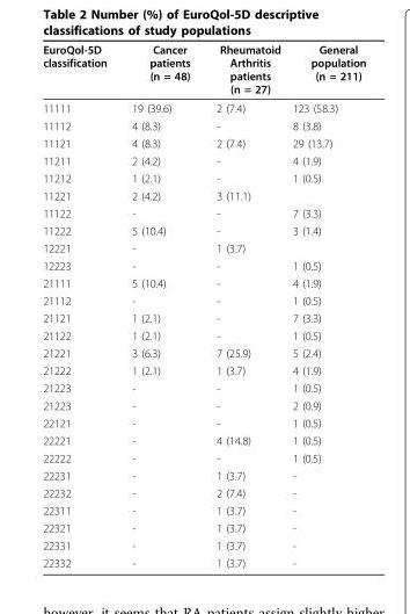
<table><thead><tr><td>EuroQol-5D classification</td><td>Cancer patients (n = 48)</td><td>Rheumatoid Arthritis patients (n = 27)</td><td>General population (n = 211)</td></tr></thead><tbody><tr><td>11111</td><td>19 (39.6)</td><td>2 (7.4)</td><td>123 (58.3)</td></tr><tr><td>11112</td><td>4 (8.3)</td><td>-</td><td>8 (3.8)</td></tr><tr><td>11121</td><td>4 (8.3)</td><td>2 (7.4)</td><td>29 (13.7)</td></tr><tr><td>11211</td><td>2 (4.2)</td><td>-</td><td>4 (1.9)</td></tr><tr><td>11212</td><td>1 (2.1)</td><td>-</td><td>1 (0.5)</td></tr><tr><td>11221</td><td>2 (4.2)</td><td>3 (11.1)</td><td></td></tr><tr><td>11122</td><td>-</td><td>-</td><td>7 (3.3)</td></tr><tr><td>11222</td><td>5 (10.4)</td><td>-</td><td>3 (1.4)</td></tr><tr><td>12221</td><td>-</td><td>1 (3.7)</td><td></td></tr><tr><td>12223</td><td>-</td><td>-</td><td>1 (0.5)</td></tr><tr><td>21111</td><td>5 (10.4)</td><td>-</td><td>4 (1.9)</td></tr><tr><td>21112</td><td>-</td><td>-</td><td>1 (0.5)</td></tr><tr><td>21121</td><td>1 (2.1)</td><td>-</td><td>7 (3.3)</td></tr><tr><td>21122</td><td>1 (2.1)</td><td>-</td><td>1 (0.5)</td></tr><tr><td>21221</td><td>3 (6.3)</td><td>7 (25.9)</td><td>5 (2.4)</td></tr><tr><td>21222</td><td>1 (2.1)</td><td>1 (3.7)</td><td>4 (1.9)</td></tr><tr><td>21223</td><td>-</td><td>-</td><td>1 (0.5)</td></tr><tr><td>21223</td><td>-</td><td>-</td><td>2 (0.9)</td></tr><tr><td>22121</td><td>-</td><td>-</td><td>1 (0.5)</td></tr><tr><td>22221</td><td>-</td><td>4 (14.8)</td><td>1 (0.5)</td></tr><tr><td>22222</td><td>-</td><td>-</td><td>1 (0.5)</td></tr><tr><td>22231</td><td>-</td><td>1 (3.7)</td><td>-</td></tr><tr><td>22232</td><td>-</td><td>2 (7.4)</td><td>-</td></tr><tr><td>22311</td><td>-</td><td>1 (3.7)</td><td>-</td></tr><tr><td>22321</td><td>-</td><td>1 (3.7)</td><td>-</td></tr><tr><td>22331</td><td>-</td><td>1 (3.7)</td><td>-</td></tr><tr><td>22332</td><td>-</td><td>1 (3.7)</td><td>-</td></tr></tbody></table>